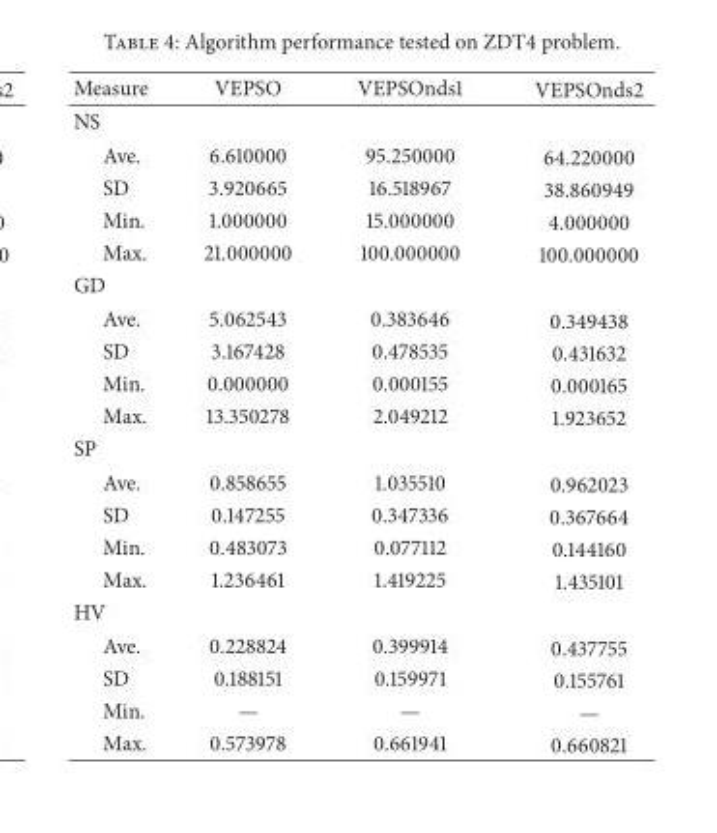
<table><thead><tr><td>Measure</td><td>VEPSO</td><td>VEPSOnds1</td><td>VEPSOnds2</td></tr></thead><tbody><tr><td colspan="4">NS</td></tr><tr><td>Ave.</td><td>6.610000</td><td>95.250000</td><td>64.220000</td></tr><tr><td>SD</td><td>3.920665</td><td>16.518967</td><td>38.860949</td></tr><tr><td>Min.</td><td>1.000000</td><td>15.000000</td><td>4.000000</td></tr><tr><td>Max.</td><td>21.000000</td><td>100.000000</td><td>100.000000</td></tr><tr><td colspan="4">GD</td></tr><tr><td>Ave.</td><td>5.062543</td><td>0.383646</td><td>0.349438</td></tr><tr><td>SD</td><td>3.167428</td><td>0.478535</td><td>0.431632</td></tr><tr><td>Min.</td><td>0.000000</td><td>0.000155</td><td>0.000165</td></tr><tr><td>Max.</td><td>13.350278</td><td>2.049212</td><td>1.923652</td></tr><tr><td colspan="4">SP</td></tr><tr><td>Ave.</td><td>0.858655</td><td>1.035510</td><td>0.962023</td></tr><tr><td>SD</td><td>0.147255</td><td>0.347336</td><td>0.367664</td></tr><tr><td>Min.</td><td>0.483073</td><td>0.077112</td><td>0.144160</td></tr><tr><td>Max.</td><td>1.236461</td><td>1.419225</td><td>1.435101</td></tr><tr><td colspan="4">HV</td></tr><tr><td>Ave.</td><td>0.228824</td><td>0.399914</td><td>0.437755</td></tr><tr><td>SD</td><td>0.188151</td><td>0.159971</td><td>0.155761</td></tr><tr><td>Min.</td><td>—</td><td>—</td><td>—</td></tr><tr><td>Max.</td><td>0.573978</td><td>0.661941</td><td>0.660821</td></tr></tbody></table>